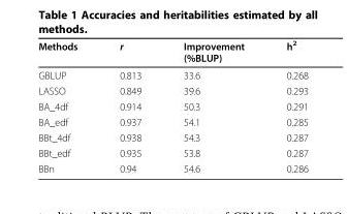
<table><thead><tr><td>Methods</td><td>r</td><td>Improvement (%BLUP)</td><td>h<sup>2</sup></td></tr></thead><tbody><tr><td>GBLUP</td><td>0.813</td><td>33.6</td><td>0.268</td></tr><tr><td>LASSO</td><td>0.849</td><td>39.6</td><td>0.293</td></tr><tr><td>BA_4df</td><td>0.914</td><td>50.3</td><td>0.291</td></tr><tr><td>BA_edf</td><td>0.937</td><td>54.1</td><td>0.285</td></tr><tr><td>BBt_4df</td><td>0.938</td><td>54.3</td><td>0.287</td></tr><tr><td>BBt_edf</td><td>0.935</td><td>53.8</td><td>0.287</td></tr><tr><td>BBn</td><td>0.94</td><td>54.6</td><td>0.286</td></tr></tbody></table>